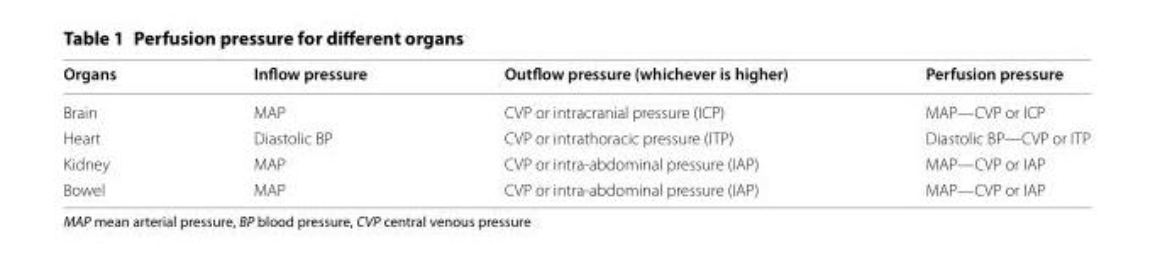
<table><thead><tr><td>Organs</td><td>Inflow pressure</td><td>Outflow pressure (whichever is higher)</td><td>Perfusion pressure</td></tr></thead><tbody><tr><td>Brain</td><td>MAP</td><td>CVP or intracranial pressure (ICP)</td><td>MAP—CVP or ICP</td></tr><tr><td>Heart</td><td>Diastolic BP</td><td>CVP or intrathoracic pressure (ITP)</td><td>Diastolic BP—CVP or ITP</td></tr><tr><td>Kidney</td><td>MAP</td><td>CVP or intra-abdominal pressure (IAP)</td><td>MAP—CVP or IAP</td></tr><tr><td>Bowel</td><td>MAP</td><td>CVP or intra-abdominal pressure (IAP)</td><td>MAP—CVP or IAP</td></tr></tbody></table>